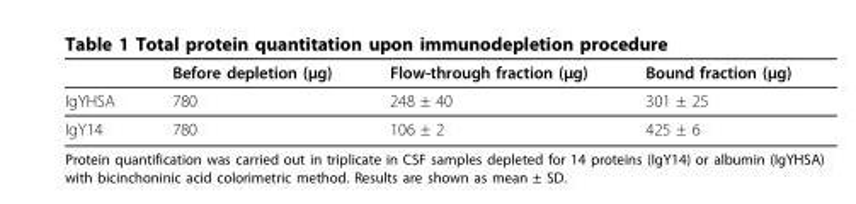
<table><thead><tr><td></td><td>Before depletion (μg)</td><td>Flow-through fraction (μg)</td><td>Bound fraction (μg)</td></tr></thead><tbody><tr><td>IgYHSA</td><td>780</td><td>248 ± 40</td><td>301 ± 25</td></tr><tr><td>IgY14</td><td>780</td><td>106 ± 2</td><td>425 ± 6</td></tr></tbody></table>